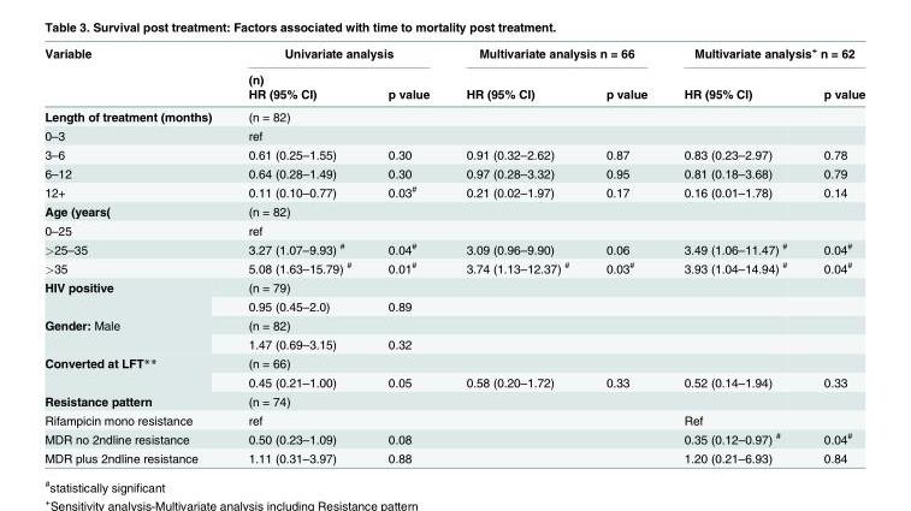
<table><thead><tr><td rowspan="3">Variable</td><td colspan="2">Univariate analysis</td><td colspan="2">Multivariate analysis n = 66</td><td colspan="2">Multivariate analysis<sup>+</sup> n = 62</td></tr><tr><td rowspan="2">(n) HR (95% CI)</td><td rowspan="2">p value</td><td rowspan="2">HR (95% CI)</td><td rowspan="2">p value</td><td rowspan="2">HR (95% CI)</td><td rowspan="2">p value</td></tr><tr></tr></thead><tbody><tr><td>Length of treatment (months)</td><td>(n = 82)</td><td></td><td></td><td></td><td></td><td></td></tr><tr><td>0–3</td><td>ref</td><td></td><td></td><td></td><td></td><td></td></tr><tr><td>3–6</td><td>0.61 (0.25–1.55)</td><td>0.30</td><td>0.91 (0.32–2.62)</td><td>0.87</td><td>0.83 (0.23–2.97)</td><td>0.78</td></tr><tr><td>6–12</td><td>0.64 (0.28–1.49)</td><td>0.30</td><td>0.97 (0.28–3.32)</td><td>0.95</td><td>0.81 (0.18–3.68)</td><td>0.79</td></tr><tr><td>12+</td><td>0.11 (0.10–0.77)</td><td>0.03<sup>#</sup></td><td>0.21 (0.02–1.97)</td><td>0.17</td><td>0.16 (0.01–1.78)</td><td>0.14</td></tr><tr><td>Age (years(</td><td>(n = 82)</td><td></td><td></td><td></td><td></td><td></td></tr><tr><td>0–25</td><td>ref</td><td></td><td></td><td></td><td></td><td></td></tr><tr><td>&gt;25–35</td><td>3.27 (1.07–9.93) <sup>#</sup></td><td>0.04<sup>#</sup></td><td>3.09 (0.96–9.90)</td><td>0.06</td><td>3.49 (1.06–11.47) <sup>#</sup></td><td>0.04<sup>#</sup></td></tr><tr><td>&gt;35</td><td>5.08 (1.63–15.79) <sup>#</sup></td><td>0.01<sup>#</sup></td><td>3.74 (1.13–12.37) <sup>#</sup></td><td>0.03<sup>#</sup></td><td>3.93 (1.04–14.94) <sup>#</sup></td><td>0.04<sup>#</sup></td></tr><tr><td rowspan="2">HIV positive</td><td>(n = 79)</td><td></td><td></td><td></td><td></td><td></td></tr><tr><td>0.95 (0.45–2.0)</td><td>0.89</td><td></td><td></td><td></td><td></td></tr><tr><td rowspan="2">Gender: Male</td><td>(n = 82)</td><td></td><td></td><td></td><td></td><td></td></tr><tr><td>1.47 (0.69–3.15)</td><td>0.32</td><td></td><td></td><td></td><td></td></tr><tr><td rowspan="2">Converted at LFT**</td><td>(n = 66)</td><td></td><td></td><td></td><td></td><td></td></tr><tr><td>0.45 (0.21–1.00)</td><td>0.05</td><td>0.58 (0.20–1.72)</td><td>0.33</td><td>0.52 (0.14–1.94)</td><td>0.33</td></tr><tr><td>Resistance pattern</td><td>(n = 74)</td><td></td><td></td><td></td><td></td><td></td></tr><tr><td>Rifampicin mono resistance</td><td>ref</td><td></td><td></td><td></td><td>Ref</td><td></td></tr><tr><td>MDR no 2ndline resistance</td><td>0.50 (0.23–1.09)</td><td>0.08</td><td></td><td></td><td>0.35 (0.12–0.97) <sup>#</sup></td><td>0.04<sup>#</sup></td></tr><tr><td>MDR plus 2ndline resistance</td><td>1.11 (0.31–3.97)</td><td>0.88</td><td></td><td></td><td>1.20 (0.21–6.93)</td><td>0.84</td></tr></tbody></table>